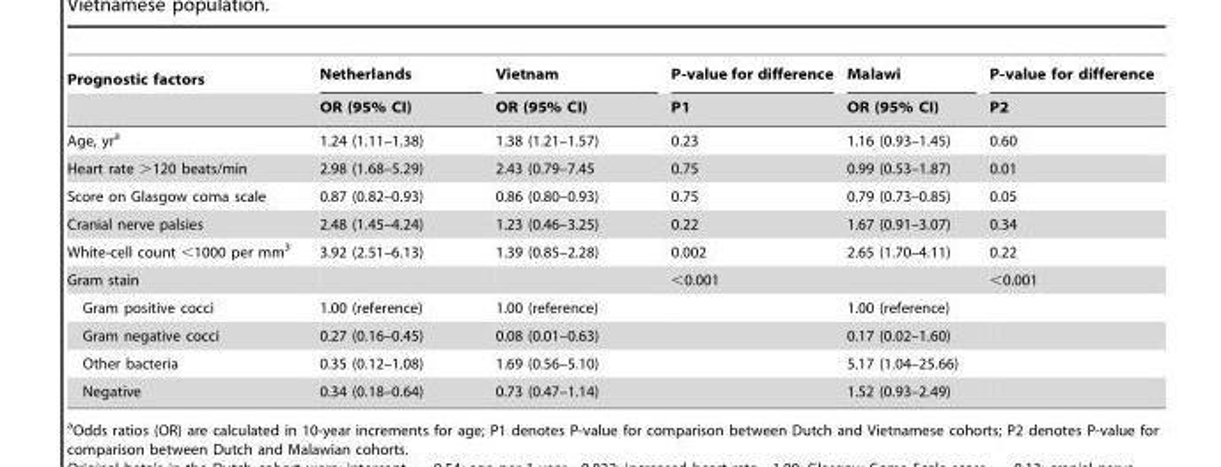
<table><thead><tr><td rowspan="2">Prognostic factors</td><td rowspan="2">Netherlands OR (95% CI)</td><td rowspan="2">Vietnam OR (95% CI)</td><td rowspan="2">P-value for difference P1</td><td rowspan="2">Malawi OR (95% CI)</td><td rowspan="2">P-value for difference P2</td></tr><tr></tr></thead><tbody><tr><td>Age, yr<sup>a</sup></td><td>1.24 (1.11–1.38)</td><td>1.38 (1.21–1.57)</td><td>0.23</td><td>1.16 (0.93–1.45)</td><td>0.60</td></tr><tr><td>Heart rate &gt;120 beats/min</td><td>2.98 (1.68–5.29)</td><td>2.43 (0.79–7.45</td><td>0.75</td><td>0.99 (0.53–1.87)</td><td>0.01</td></tr><tr><td>Score on Glasgow coma scale</td><td>0.87 (0.82–0.93)</td><td>0.86 (0.80–0.93)</td><td>0.75</td><td>0.79 (0.73–0.85)</td><td>0.05</td></tr><tr><td>Cranial nerve palsies</td><td>2.48 (1.45–4.24)</td><td>1.23 (0.46–3.25)</td><td>0.22</td><td>1.67 (0.91–3.07)</td><td>0.34</td></tr><tr><td>White-cell count &lt;1000 per mm<sup>3</sup></td><td>3.92 (2.51–6.13)</td><td>1.39 (0.85–2.28)</td><td>0.002</td><td>2.65 (1.70–4.11)</td><td>0.22</td></tr><tr><td>Gram stain</td><td></td><td></td><td>&lt;0.001</td><td></td><td>&lt;0.001</td></tr><tr><td>Gram positive cocci</td><td>1.00 (reference)</td><td>1.00 (reference)</td><td></td><td>1.00 (reference)</td><td></td></tr><tr><td>Gram negative cocci</td><td>0.27 (0.16–0.45)</td><td>0.08 (0.01–0.63)</td><td></td><td>0.17 (0.02–1.60)</td><td></td></tr><tr><td>Other bacteria</td><td>0.35 (0.12–1.08)</td><td>1.69 (0.56–5.10)</td><td></td><td>5.17 (1.04–25.66)</td><td></td></tr><tr><td>Negative</td><td>0.34 (0.18–0.64)</td><td>0.73 (0.47–1.14)</td><td></td><td>1.52 (0.93–2.49)</td><td></td></tr></tbody></table>